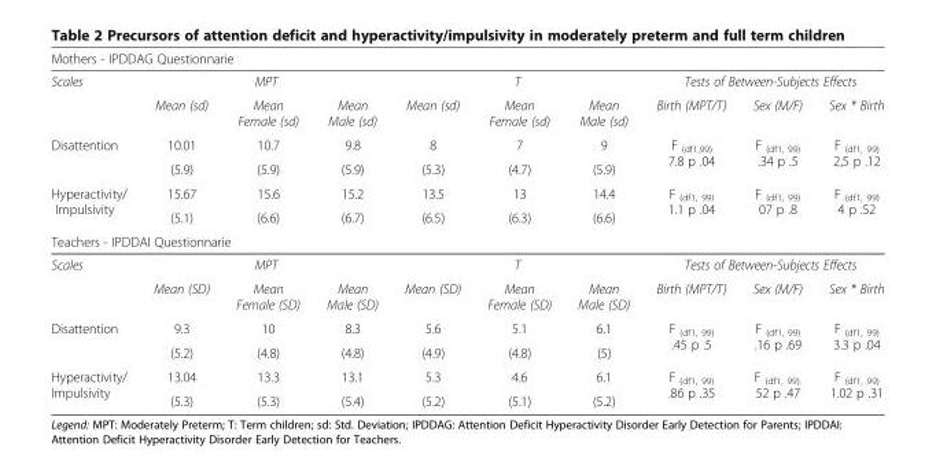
<table><tbody><tr><td colspan="10">Mothers - IPDDAG Questionnarie</td></tr><tr><td rowspan="2">Scales</td><td colspan="3">MPT</td><td colspan="3">T</td><td colspan="3">Tests of Between-Subjects Effects</td></tr><tr><td>Mean (sd)</td><td>Mean Female (sd)</td><td>Mean Male (sd)</td><td>Mean (sd)</td><td>Mean Female (sd)</td><td>Mean Male (sd)</td><td>Birth (MPT/T)</td><td>Sex (M/F)</td><td>Sex * Birth</td></tr><tr><td rowspan="2">Disattention</td><td>10.01</td><td>10.7</td><td>9.8</td><td>8</td><td>7</td><td>9</td><td rowspan="2">F <sub>(df1,99)</sub> 7.8 p .04</td><td rowspan="2">F <sub>(df1, 99)</sub> .34 p .5</td><td rowspan="2">F <sub>(df1, 99)</sub> 2,5 p .12</td></tr><tr><td>(5.9)</td><td>(5.9)</td><td>(5.9)</td><td>(5.3)</td><td>(4.7)</td><td>(5.9)</td></tr><tr><td rowspan="2">Hyperactivity/ Impulsivity</td><td>15.67</td><td>15.6</td><td>15.2</td><td>13.5</td><td>13</td><td>14.4</td><td rowspan="2">F <sub>(df1, 99)</sub> 1.1 p .04</td><td rowspan="2">F <sub>(df1, 99)</sub> 07 p .8</td><td rowspan="2">F <sub>(df1, 99)</sub> 4 p .52</td></tr><tr><td>(5.1)</td><td>(6.6)</td><td>(6.7)</td><td>(6.5)</td><td>(6.3)</td><td>(6.6)</td></tr><tr><td colspan="10">Teachers - IPDDAI Questionnarie</td></tr><tr><td rowspan="2">Scales</td><td colspan="3">MPT</td><td colspan="3">T</td><td colspan="3">Tests of Between-Subjects Effects</td></tr><tr><td>Mean (SD)</td><td>Mean Female (SD)</td><td>Mean Male (SD)</td><td>Mean (SD)</td><td>Mean Female (SD)</td><td>Mean Male (SD)</td><td>Birth (MPT/T)</td><td>Sex (M/F)</td><td>Sex * Birth</td></tr><tr><td rowspan="2">Disattention</td><td>9.3</td><td>10</td><td>8.3</td><td>5.6</td><td>5.1</td><td>6.1</td><td rowspan="2">F <sub>(df1, 99)</sub> .45 p .5</td><td rowspan="2">F <sub>(df1, 99)</sub> .16 p .69</td><td rowspan="2">F <sub>(df1, 99)</sub> 3.3 p .04</td></tr><tr><td>(5.2)</td><td>(4.8)</td><td>(4.8)</td><td>(4.9)</td><td>(4.8)</td><td>(5)</td></tr><tr><td rowspan="2">Hyperactivity/ Impulsivity</td><td>13.04</td><td>13.3</td><td>13.1</td><td>5.3</td><td>4.6</td><td>6.1</td><td rowspan="2">F <sub>(df1, 99)</sub> .86 p .35</td><td rowspan="2">F <sub>(df1, 99).</sub> 52 p .47</td><td rowspan="2">F <sub>(df1, 99)</sub> 1.02 p .31</td></tr><tr><td>(5.3)</td><td>(5.3)</td><td>(5.4)</td><td>(5.2)</td><td>(5.1)</td><td>(5.2)</td></tr></tbody></table>